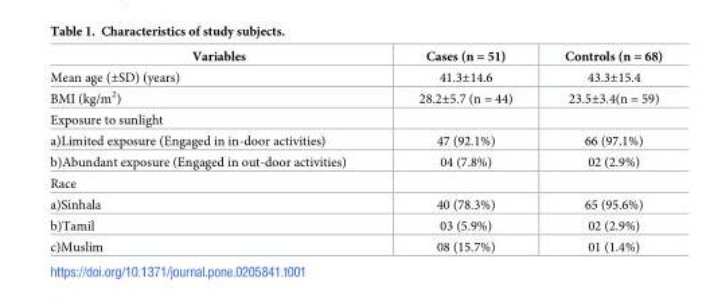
<table><thead><tr><td>Variables</td><td>Cases (n = 51)</td><td>Controls (n = 68)</td></tr></thead><tbody><tr><td>Mean age (±SD) (years)</td><td>41.3±14.6</td><td>43.3±15.4</td></tr><tr><td>BMI (kg/m<sup>2</sup>)</td><td>28.2±5.7 (n = 44)</td><td>23.5±3.4(n = 59)</td></tr><tr><td colspan="3">Exposure to sunlight</td></tr><tr><td>a)Limited exposure (Engaged in in-door activities)</td><td>47 (92.1%)</td><td>66 (97.1%)</td></tr><tr><td>b)Abundant exposure (Engaged in out-door activities)</td><td>04 (7.8%)</td><td>02 (2.9%)</td></tr><tr><td colspan="3">Race</td></tr><tr><td>a)Sinhala</td><td>40 (78.3%)</td><td>65 (95.6%)</td></tr><tr><td>b)Tamil</td><td>03 (5.9%)</td><td>02 (2.9%)</td></tr><tr><td>c)Muslim</td><td>08 (15.7%)</td><td>01 (1.4%)</td></tr></tbody></table>